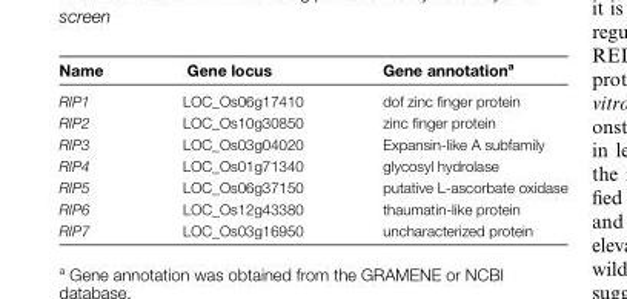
<table><thead><tr><td>Name</td><td>Gene locus</td><td>Gene annotation<sup>a</sup></td></tr></thead><tbody><tr><td>RIP1</td><td>LOC_Os06g17410</td><td>dof zinc finger protein</td></tr><tr><td>RIP2</td><td>LOC_Os10g30850</td><td>zinc finger protein</td></tr><tr><td>RIP3</td><td>LOC_Os03g04020</td><td>Expansin-like A subfamily</td></tr><tr><td>RIP4</td><td>LOC_Os01g71340</td><td>glycosyl hydrolase</td></tr><tr><td>RIP5</td><td>LOC_Os06g37150</td><td>putative L-ascorbate oxidase</td></tr><tr><td>RIP6</td><td>LOC_Os12g43380</td><td>thaumatin-like protein</td></tr><tr><td>RIP7</td><td>LOC_Os03g16950</td><td>uncharacterized protein</td></tr></tbody></table>